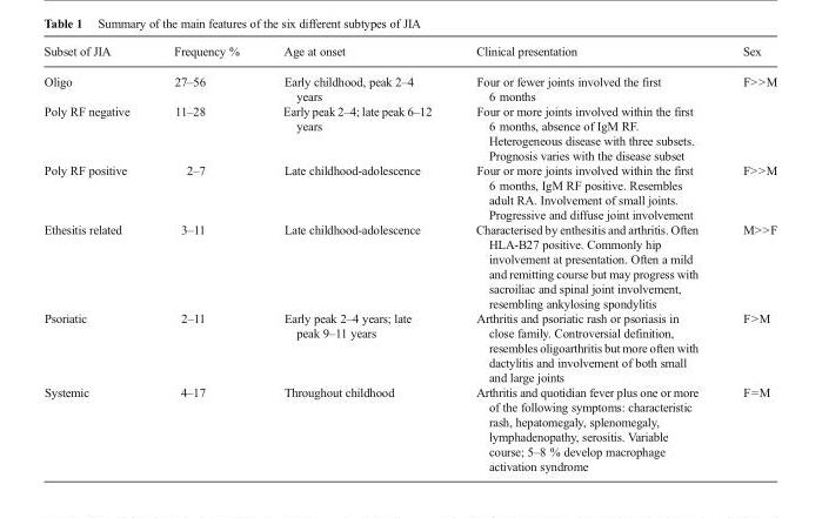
<table><thead><tr><td>Subset of JIA</td><td>Frequency %</td><td>Age at onset</td><td>Clinical presentation</td><td>Sex</td></tr></thead><tbody><tr><td>Oligo</td><td>27–56</td><td>Early childhood, peak 2–4 years</td><td>Four or fewer joints involved the first 6 months</td><td>F&gt;&gt;M</td></tr><tr><td>Poly RF negative</td><td>11–28</td><td>Early peak 2–4; late peak 6–12 years</td><td>Four or more joints involved within the first 6 months, absence of IgM RF. Heterogeneous disease with three subsets. Prognosis varies with the disease subset</td><td></td></tr><tr><td>Poly RF positive</td><td>2–7</td><td>Late childhood-adolescence</td><td>Four or more joints involved within the first 6 months, IgM RF positive. Resembles adult RA. Involvement of small joints. Progressive and diffuse joint involvement</td><td>F&gt;&gt;M</td></tr><tr><td>Ethesitis related</td><td>3–11</td><td>Late childhood-adolescence</td><td>Characterised by enthesitis and arthritis. Often HLA-B27 positive. Commonly hip involvement at presentation. Often a mild and remitting course but may progress with sacroiliac and spinal joint involvement, resembling ankylosing spondylitis</td><td>M&gt;&gt;F</td></tr><tr><td>Psoriatic</td><td>2–11</td><td>Early peak 2–4 years; late peak 9–11 years</td><td>Arthritis and psoriatic rash or psoriasis in close family. Controversial definition, resembles oligoarthritis but more often with dactylitis and involvement of both small and large joints</td><td>F&gt;M</td></tr><tr><td>Systemic</td><td>4–17</td><td>Throughout childhood</td><td>Arthritis and quotidian fever plus one or more of the following symptoms: characteristic rash, hepatomegaly, splenomegaly, lymphadenopathy, serositis. Variable course; 5–8 % develop macrophage activation syndrome</td><td>F=M</td></tr></tbody></table>